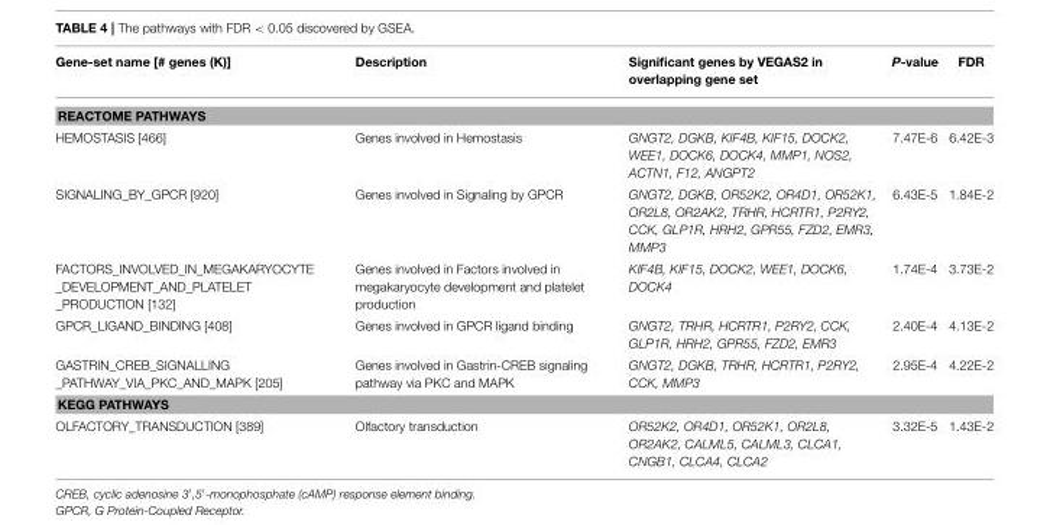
<table><thead><tr><td>Gene-set name [# genes (K)]</td><td>Description</td><td>Significant genes by VEGAS2 in overlapping gene set</td><td>P-value</td><td>FDR</td></tr></thead><tbody><tr><td colspan="5">REACTOME PATHWAYS</td></tr><tr><td>HEMOSTASIS [466]</td><td>Genes involved in Hemostasis</td><td>GNGT2, DGKB, KIF4B, KIF15, DOCK2, WEE1, DOCK6, DOCK4, MMP1, NOS2, ACTN1, F12, ANGPT2</td><td>7.47E-6</td><td>6.42E-3</td></tr><tr><td>SIGNALING_BY_GPCR [920]</td><td>Genes involved in Signaling by GPCR</td><td>GNGT2, DGKB, OR52K2, OR4D1, OR52K1, OR2L8, OR2AK2, TRHR, HCRTR1, P2RY2, CCK, GLP1R, HRH2, GPR55, FZD2, EMR3, MMP3</td><td>6.43E-5</td><td>1.84E-2</td></tr><tr><td>FACTORS_INVOLVED_IN_MEGAKARYOCYTE _DEVELOPMENT_AND_PLATELET _PRODUCTION [132]</td><td>Genes involved in Factors involved in megakaryocyte development and platelet production</td><td>KIF4B, KIF15, DOCK2, WEE1, DOCK6, DOCK4</td><td>1.74E-4</td><td>3.73E-2</td></tr><tr><td>GPCR_LIGAND_BINDING [408]</td><td>Genes involved in GPCR ligand binding</td><td>GNGT2, TRHR, HCRTR1, P2RY2, CCK, GLP1R, HRH2, GPR55, FZD2, EMR3</td><td>2.40E-4</td><td>4.13E-2</td></tr><tr><td>GASTRIN_CREB_SIGNALLING _PATHWAY_VIA_PKC_AND_MAPK [205]</td><td>Genes involved in Gastrin-CREB signaling pathway via PKC and MAPK</td><td>GNGT2, DGKB, TRHR, HCRTR1, P2RY2, CCK, MMP3</td><td>2.95E-4</td><td>4.22E-2</td></tr><tr><td colspan="5">KEGG PATHWAYS</td></tr><tr><td>OLFACTORY_TRANSDUCTION [389]</td><td>Olfactory transduction</td><td>OR52K2, OR4D1, OR52K1, OR2L8, OR2AK2, CALML5, CALML3, CLCA1, CNGB1, CLCA4, CLCA2</td><td>3.32E-5</td><td>1.43E-2</td></tr></tbody></table>